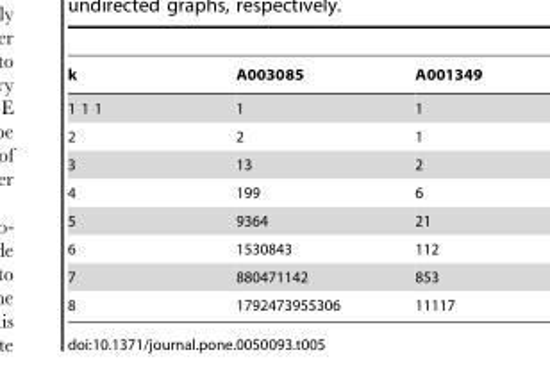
<table><thead><tr><td>k</td><td>A003085</td><td>A001349</td></tr></thead><tbody><tr><td>1 1 1</td><td>1</td><td>1</td></tr><tr><td>2</td><td>2</td><td>1</td></tr><tr><td>3</td><td>13</td><td>2</td></tr><tr><td>4</td><td>199</td><td>6</td></tr><tr><td>5</td><td>9364</td><td>21</td></tr><tr><td>6</td><td>1530843</td><td>112</td></tr><tr><td>7</td><td>880471142</td><td>853</td></tr><tr><td>8</td><td>1792473955306</td><td>11117</td></tr></tbody></table>